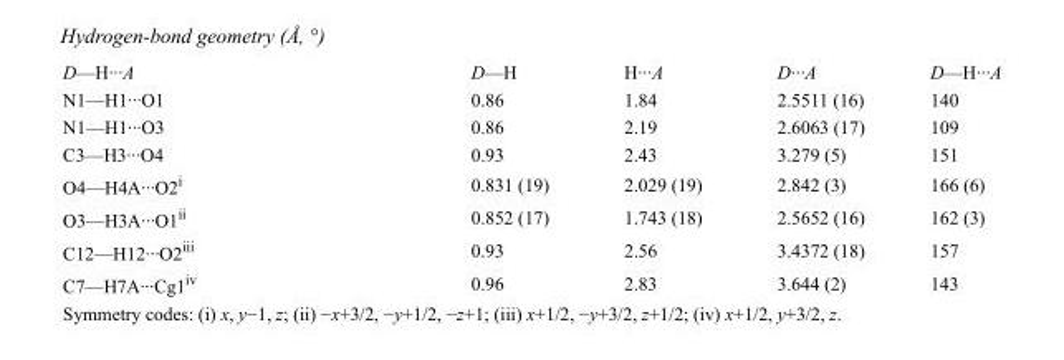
<table><tbody><tr><td>D—H···A</td><td>D—H</td><td>H···A</td><td>D···A</td><td>D—H···A</td></tr><tr><td>N1—H1···O1</td><td>0.86</td><td>1.84</td><td>2.5511 (16)</td><td>140</td></tr><tr><td>N1—H1···O3</td><td>0.86</td><td>2.19</td><td>2.6063 (17)</td><td>109</td></tr><tr><td>C3—H3···O4</td><td>0.93</td><td>2.43</td><td>3.279 (5)</td><td>151</td></tr><tr><td>O4—H4A···O2<sup>i</sup></td><td>0.831 (19)</td><td>2.029 (19)</td><td>2.842 (3)</td><td>166 (6)</td></tr><tr><td>O3—H3A···O1<sup>ii</sup></td><td>0.852 (17)</td><td>1.743 (18)</td><td>2.5652 (16)</td><td>162 (3)</td></tr><tr><td>C12—H12···O2<sup>iii</sup></td><td>0.93</td><td>2.56</td><td>3.4372 (18)</td><td>157</td></tr><tr><td>C7—H7A···Cg1<sup>iv</sup></td><td>0.96</td><td>2.83</td><td>3.644 (2)</td><td>143</td></tr></tbody></table>